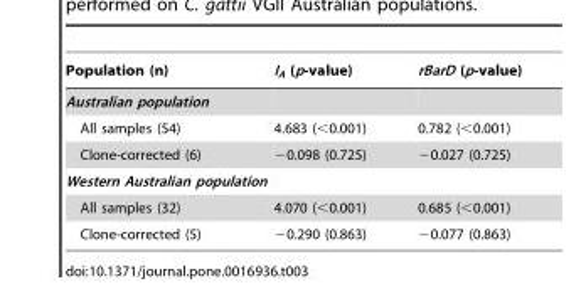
<table><thead><tr><td>Population (n)</td><td>I<sub>A</sub> (p-value)</td><td>rBarD (p-value)</td></tr></thead><tbody><tr><td colspan="3">Australian population</td></tr><tr><td>All samples (54)</td><td>4.683 (&lt;0.001)</td><td>0.782 (&lt;0.001)</td></tr><tr><td>Clone-corrected (6)</td><td>−0.098 (0.725)</td><td>−0.027 (0.725)</td></tr><tr><td colspan="3">Western Australian population</td></tr><tr><td>All samples (32)</td><td>4.070 (&lt;0.001)</td><td>0.685 (&lt;0.001)</td></tr><tr><td>Clone-corrected (5)</td><td>−0.290 (0.863)</td><td>−0.077 (0.863)</td></tr></tbody></table>